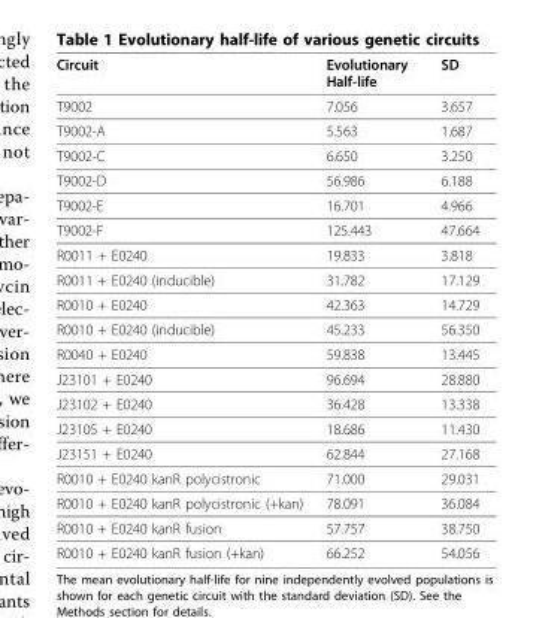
<table><thead><tr><td>Circuit</td><td>Evolutionary Half-life</td><td>SD</td></tr></thead><tbody><tr><td>T9002</td><td>7.056</td><td>3.657</td></tr><tr><td>T9002-A</td><td>5.563</td><td>1.687</td></tr><tr><td>T9002-C</td><td>6.650</td><td>3.250</td></tr><tr><td>T9002-D</td><td>56.986</td><td>6.188</td></tr><tr><td>T9002-E</td><td>16.701</td><td>4.966</td></tr><tr><td>T9002-F</td><td>125.443</td><td>47.664</td></tr><tr><td>R0011 + E0240</td><td>19.833</td><td>3.818</td></tr><tr><td>R0011 + E0240 (inducible)</td><td>31.782</td><td>17.129</td></tr><tr><td>R0010 + E0240</td><td>42.363</td><td>14.729</td></tr><tr><td>R0010 + E0240 (inducible)</td><td>45.233</td><td>56.350</td></tr><tr><td>R0040 + E0240</td><td>59.838</td><td>13.445</td></tr><tr><td>J23101 + E0240</td><td>96.694</td><td>28.880</td></tr><tr><td>J23102 + E0240</td><td>36.428</td><td>13.338</td></tr><tr><td>J23105 + E0240</td><td>18.686</td><td>11.430</td></tr><tr><td>J23151 + E0240</td><td>62.844</td><td>27.168</td></tr><tr><td>R0010 + E0240 kanR polycistronic</td><td>71.000</td><td>29.031</td></tr><tr><td>R0010 + E0240 kanR polycistronic (+kan)</td><td>78.091</td><td>36.084</td></tr><tr><td>R0010 + E0240 kanR fusion</td><td>57.757</td><td>38.750</td></tr><tr><td>R0010 + E0240 kanR fusion (+kan)</td><td>66.252</td><td>54.056</td></tr></tbody></table>